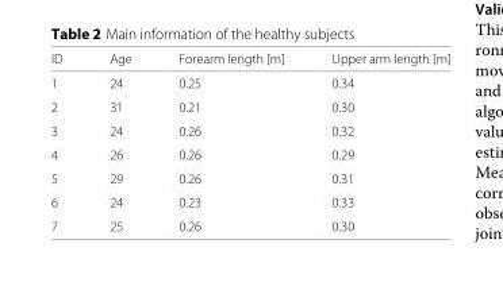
<table><thead><tr><td>ID</td><td>Age</td><td>Forearm length [m]</td><td>Upper arm length [m]</td></tr></thead><tbody><tr><td>1</td><td>24</td><td>0.25</td><td>0.34</td></tr><tr><td>2</td><td>31</td><td>0.21</td><td>0.30</td></tr><tr><td>3</td><td>24</td><td>0.26</td><td>0.32</td></tr><tr><td>4</td><td>26</td><td>0.26</td><td>0.29</td></tr><tr><td>5</td><td>29</td><td>0.26</td><td>0.31</td></tr><tr><td>6</td><td>24</td><td>0.23</td><td>0.33</td></tr><tr><td>7</td><td>25</td><td>0.26</td><td>0.30</td></tr></tbody></table>